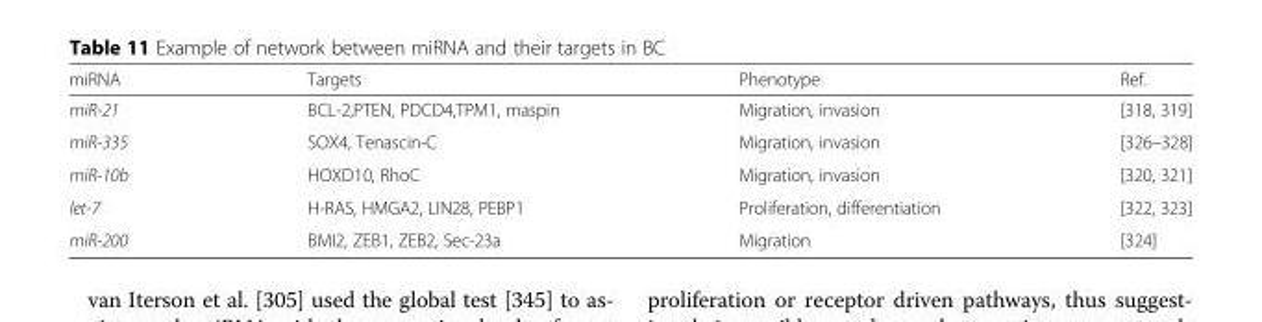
<table><thead><tr><td>miRNA</td><td>Targets</td><td>Phenotype</td><td>Ref.</td></tr></thead><tbody><tr><td>miR-21</td><td>BCL-2,PTEN, PDCD4,TPM1, maspin</td><td>Migration, invasion</td><td>[318, 319]</td></tr><tr><td>miR-335</td><td>SOX4, Tenascin-C</td><td>Migration, invasion</td><td>[326–328]</td></tr><tr><td>miR-10b</td><td>HOXD10, RhoC</td><td>Migration, invasion</td><td>[320, 321]</td></tr><tr><td>let-7</td><td>H-RAS, HMGA2, LIN28, PEBP1</td><td>Proliferation, differentiation</td><td>[322, 323]</td></tr><tr><td>miR-200</td><td>BMI2, ZEB1, ZEB2, Sec-23a</td><td>Migration</td><td>[324]</td></tr></tbody></table>